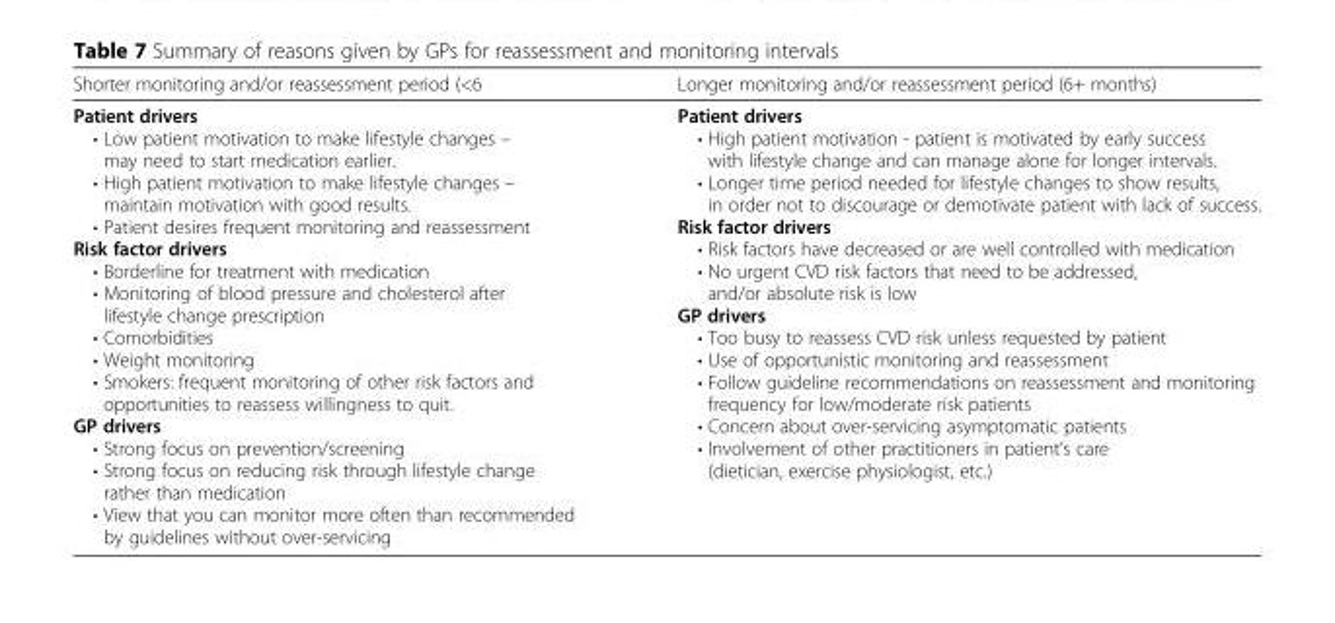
<table><thead><tr><td>Shorter monitoring and/or reassessment period (&lt;6</td><td>Longer monitoring and/or reassessment period (6+ months)</td></tr></thead><tbody><tr><td>Patient drivers • Low patient motivation to make lifestyle changes – may need to start medication earlier. • High patient motivation to make lifestyle changes – maintain motivation with good results. • Patient desires frequent monitoring and reassessment Risk factor drivers • Borderline for treatment with medication • Monitoring of blood pressure and cholesterol after lifestyle change prescription • Comorbidities • Weight monitoring • Smokers: frequent monitoring of other risk factors and opportunities to reassess willingness to quit. GP drivers • Strong focus on prevention/screening • Strong focus on reducing risk through lifestyle change rather than medication • View that you can monitor more often than recommended by guidelines without over-servicing</td><td>Patient drivers • High patient motivation - patient is motivated by early success with lifestyle change and can manage alone for longer intervals. • Longer time period needed for lifestyle changes to show results, in order not to discourage or demotivate patient with lack of success. Risk factor drivers • Risk factors have decreased or are well controlled with medication • No urgent CVD risk factors that need to be addressed, and/or absolute risk is low GP drivers • Too busy to reassess CVD risk unless requested by patient • Use of opportunistic monitoring and reassessment • Follow guideline recommendations on reassessment and monitoring frequency for low/moderate risk patients • Concern about over-servicing asymptomatic patients • Involvement of other practitioners in patient’s care (dietician, exercise physiologist, etc.)</td></tr></tbody></table>